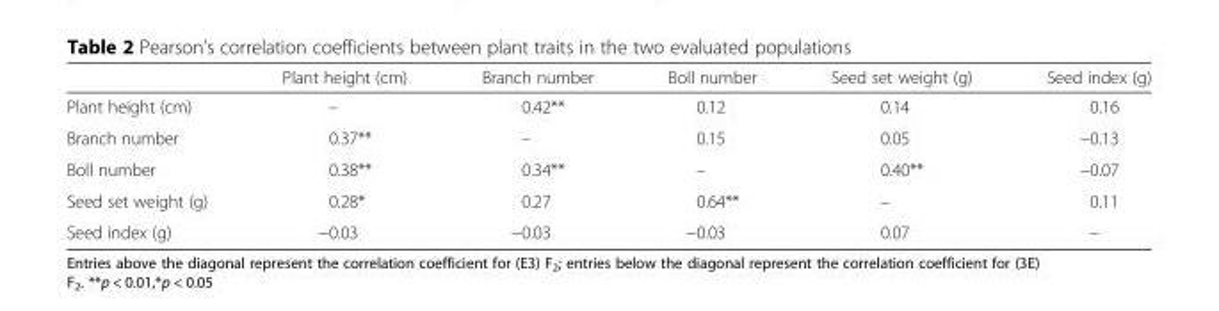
<table><thead><tr><td></td><td>Plant height (cm)</td><td>Branch number</td><td>Boll number</td><td>Seed set weight (g)</td><td>Seed index (g)</td></tr></thead><tbody><tr><td>Plant height (cm)</td><td>–</td><td>0.42**</td><td>0.12</td><td>0.14</td><td>0.16</td></tr><tr><td>Branch number</td><td>0.37**</td><td>–</td><td>0.15</td><td>0.05</td><td>−0.13</td></tr><tr><td>Boll number</td><td>0.38**</td><td>0.34**</td><td>–</td><td>0.40**</td><td>−0.07</td></tr><tr><td>Seed set weight (g)</td><td>0.28*</td><td>0.27</td><td>0.64**</td><td>–</td><td>0.11</td></tr><tr><td>Seed index (g)</td><td>−0.03</td><td>−0.03</td><td>−0.03</td><td>0.07</td><td>–</td></tr></tbody></table>